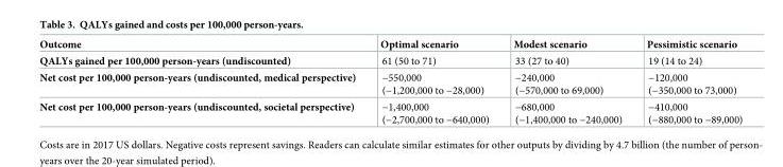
<table><thead><tr><td>Outcome</td><td>Optimal scenario</td><td>Modest scenario</td><td>Pessimistic scenario</td></tr></thead><tbody><tr><td>QALYs gained per 100,000 person-years (undiscounted)</td><td>61 (50 to 71)</td><td>33 (27 to 40)</td><td>19 (14 to 24)</td></tr><tr><td>Net cost per 100,000 person-years (undiscounted, medical perspective)</td><td>−550,000 (−1,200,000 to −28,000)</td><td>−240,000 (−570,000 to 69,000)</td><td>−120,000 (−350,000 to 73,000)</td></tr><tr><td>Net cost per 100,000 person-years (undiscounted, societal perspective)</td><td>−1,400,000 (−2,700,000 to −640,000)</td><td>−680,000 (−1,400,000 to −240,000)</td><td>−410,000 (−880,000 to −89,000)</td></tr></tbody></table>